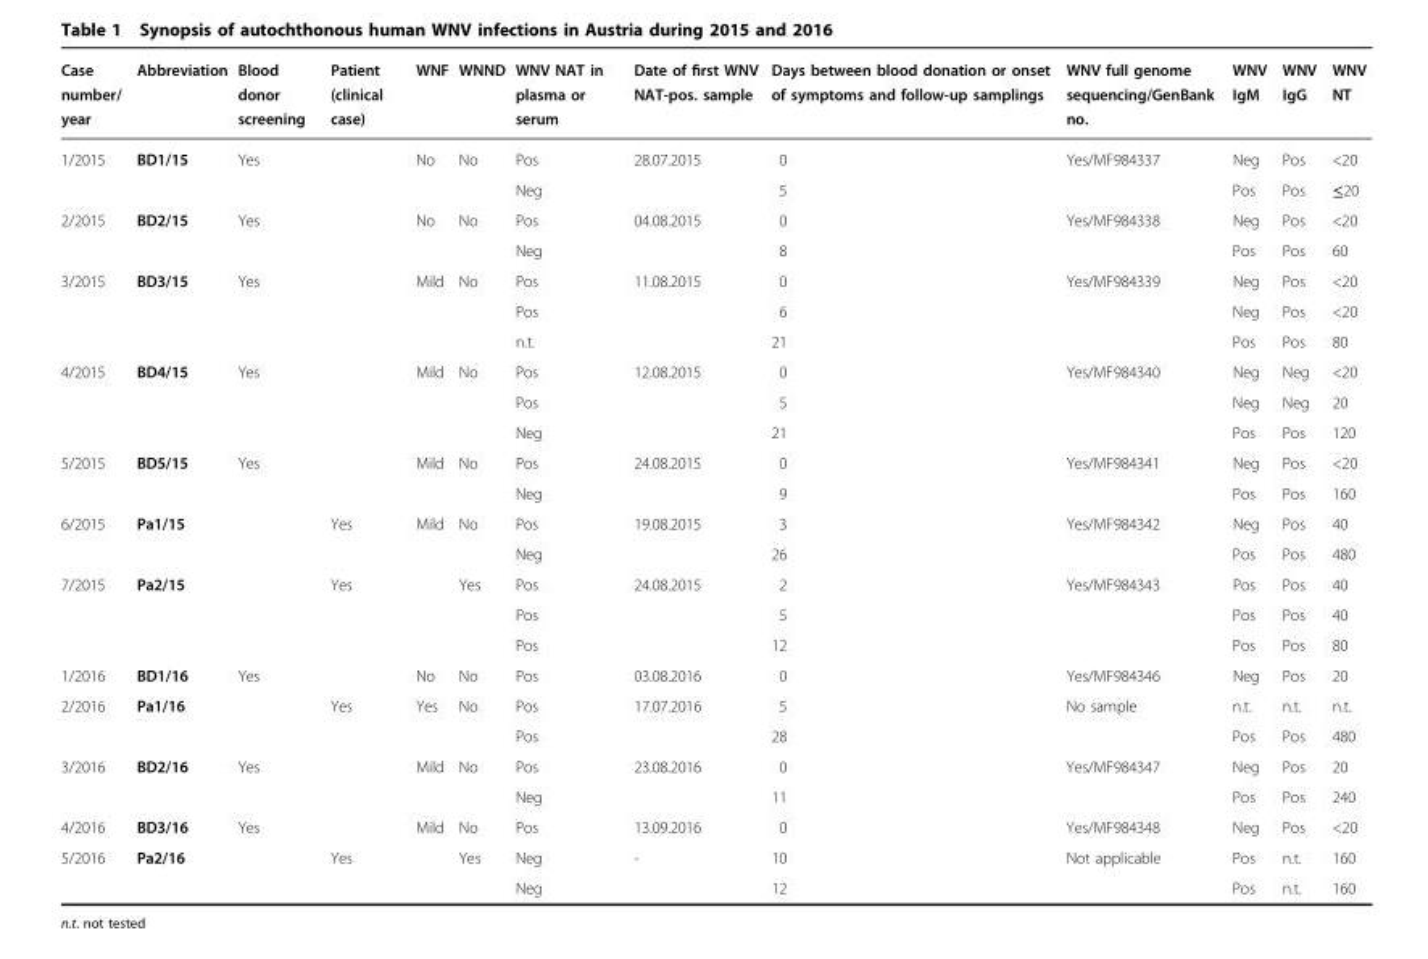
<table><thead><tr><td>Case number/ year</td><td>Abbreviation</td><td>Blood donor screening</td><td>Patient (clinical case)</td><td>WNF</td><td>WNND</td><td>WNV NAT in plasma or serum</td><td>Date of first WNV NAT-pos. sample</td><td>Days between blood donation or onset of symptoms and follow-up samplings</td><td>WNV full genome sequencing/GenBank no.</td><td>WNV IgM</td><td>WNV IgG</td><td>WNV NT</td></tr></thead><tbody><tr><td rowspan="2">1/2015</td><td>BD1/15</td><td>Yes</td><td></td><td>No</td><td>No</td><td>Pos</td><td>28.07.2015</td><td>0</td><td>Yes/MF984337</td><td>Neg</td><td>Pos</td><td>&lt;20</td></tr><tr><td></td><td></td><td></td><td></td><td></td><td>Neg</td><td></td><td>5</td><td></td><td>Pos</td><td>Pos</td><td>≤20</td></tr><tr><td rowspan="2">2/2015</td><td>BD2/15</td><td>Yes</td><td></td><td>No</td><td>No</td><td>Pos</td><td>04.08.2015</td><td>0</td><td>Yes/MF984338</td><td>Neg</td><td>Pos</td><td>&lt;20</td></tr><tr><td></td><td></td><td></td><td></td><td></td><td>Neg</td><td></td><td>8</td><td></td><td>Pos</td><td>Pos</td><td>60</td></tr><tr><td rowspan="3">3/2015</td><td>BD3/15</td><td>Yes</td><td></td><td>Mild</td><td>No</td><td>Pos</td><td>11.08.2015</td><td>0</td><td>Yes/MF984339</td><td>Neg</td><td>Pos</td><td>&lt;20</td></tr><tr><td></td><td></td><td></td><td></td><td></td><td>Pos</td><td></td><td>6</td><td></td><td>Neg</td><td>Pos</td><td>&lt;20</td></tr><tr><td></td><td></td><td></td><td></td><td></td><td>n.t.</td><td></td><td>21</td><td></td><td>Pos</td><td>Pos</td><td>80</td></tr><tr><td rowspan="3">4/2015</td><td>BD4/15</td><td>Yes</td><td></td><td>Mild</td><td>No</td><td>Pos</td><td>12.08.2015</td><td>0</td><td>Yes/MF984340</td><td>Neg</td><td>Neg</td><td>&lt;20</td></tr><tr><td></td><td></td><td></td><td></td><td></td><td>Pos</td><td></td><td>5</td><td></td><td>Neg</td><td>Neg</td><td>20</td></tr><tr><td></td><td></td><td></td><td></td><td></td><td>Neg</td><td></td><td>21</td><td></td><td>Pos</td><td>Pos</td><td>120</td></tr><tr><td rowspan="2">5/2015</td><td>BD5/15</td><td>Yes</td><td></td><td>Mild</td><td>No</td><td>Pos</td><td>24.08.2015</td><td>0</td><td>Yes/MF984341</td><td>Neg</td><td>Pos</td><td>&lt;20</td></tr><tr><td></td><td></td><td></td><td></td><td></td><td>Neg</td><td></td><td>9</td><td></td><td>Pos</td><td>Pos</td><td>160</td></tr><tr><td rowspan="2">6/2015</td><td>Pa1/15</td><td></td><td>Yes</td><td>Mild</td><td>No</td><td>Pos</td><td>19.08.2015</td><td>3</td><td>Yes/MF984342</td><td>Neg</td><td>Pos</td><td>40</td></tr><tr><td></td><td></td><td></td><td></td><td></td><td>Neg</td><td></td><td>26</td><td></td><td>Pos</td><td>Pos</td><td>480</td></tr><tr><td rowspan="3">7/2015</td><td>Pa2/15</td><td></td><td>Yes</td><td></td><td>Yes</td><td>Pos</td><td>24.08.2015</td><td>2</td><td>Yes/MF984343</td><td>Pos</td><td>Pos</td><td>40</td></tr><tr><td></td><td></td><td></td><td></td><td></td><td>Pos</td><td></td><td>5</td><td></td><td>Pos</td><td>Pos</td><td>40</td></tr><tr><td></td><td></td><td></td><td></td><td></td><td>Pos</td><td></td><td>12</td><td></td><td>Pos</td><td>Pos</td><td>80</td></tr><tr><td>1/2016</td><td>BD1/16</td><td>Yes</td><td></td><td>No</td><td>No</td><td>Pos</td><td>03.08.2016</td><td>0</td><td>Yes/MF984346</td><td>Neg</td><td>Pos</td><td>20</td></tr><tr><td rowspan="2">2/2016</td><td>Pa1/16</td><td></td><td>Yes</td><td>Yes</td><td>No</td><td>Pos</td><td>17.07.2016</td><td>5</td><td>No sample</td><td>n.t.</td><td>n.t.</td><td>n.t.</td></tr><tr><td></td><td></td><td></td><td></td><td></td><td>Pos</td><td></td><td>28</td><td></td><td>Pos</td><td>Pos</td><td>480</td></tr><tr><td rowspan="2">3/2016</td><td>BD2/16</td><td>Yes</td><td></td><td>Mild</td><td>No</td><td>Pos</td><td>23.08.2016</td><td>0</td><td>Yes/MF984347</td><td>Neg</td><td>Pos</td><td>20</td></tr><tr><td></td><td></td><td></td><td></td><td></td><td>Neg</td><td></td><td>11</td><td></td><td>Pos</td><td>Pos</td><td>240</td></tr><tr><td>4/2016</td><td>BD3/16</td><td>Yes</td><td></td><td>Mild</td><td>No</td><td>Pos</td><td>13.09.2016</td><td>0</td><td>Yes/MF984348</td><td>Neg</td><td>Pos</td><td>&lt;20</td></tr><tr><td rowspan="2">5/2016</td><td>Pa2/16</td><td></td><td>Yes</td><td></td><td>Yes</td><td>Neg</td><td>-</td><td>10</td><td>Not applicable</td><td>Pos</td><td>n.t.</td><td>160</td></tr><tr><td></td><td></td><td></td><td></td><td></td><td>Neg</td><td></td><td>12</td><td></td><td>Pos</td><td>n.t.</td><td>160</td></tr></tbody></table>